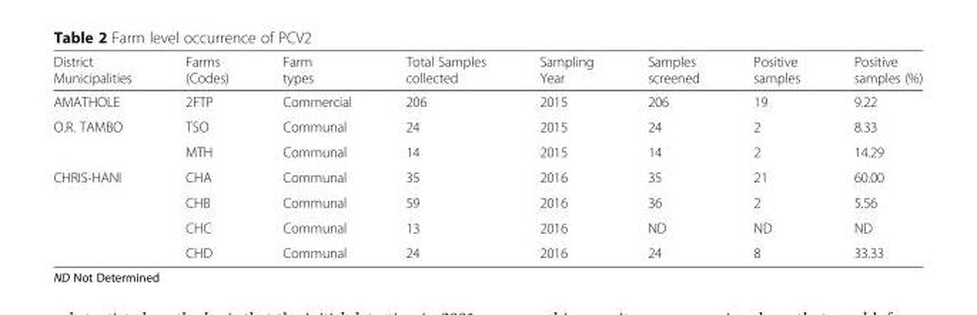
<table><thead><tr><td>District Municipalities</td><td>Farms (Codes)</td><td>Farm types</td><td>Total Samples collected</td><td>Sampling Year</td><td>Samples screened</td><td>Positive samples</td><td>Positive samples (%)</td></tr></thead><tbody><tr><td>AMATHOLE</td><td>2FTP</td><td>Commercial</td><td>206</td><td>2015</td><td>206</td><td>19</td><td>9.22</td></tr><tr><td rowspan="2">O.R. TAMBO</td><td>TSO</td><td>Communal</td><td>24</td><td>2015</td><td>24</td><td>2</td><td>8.33</td></tr><tr><td>MTH</td><td>Communal</td><td>14</td><td>2015</td><td>14</td><td>2</td><td>14.29</td></tr><tr><td rowspan="4">CHRIS-HANI</td><td>CHA</td><td>Communal</td><td>35</td><td>2016</td><td>35</td><td>21</td><td>60.00</td></tr><tr><td>CHB</td><td>Communal</td><td>59</td><td>2016</td><td>36</td><td>2</td><td>5.56</td></tr><tr><td>CHC</td><td>Communal</td><td>13</td><td>2016</td><td>ND</td><td>ND</td><td>ND</td></tr><tr><td>CHD</td><td>Communal</td><td>24</td><td>2016</td><td>24</td><td>8</td><td>33.33</td></tr></tbody></table>